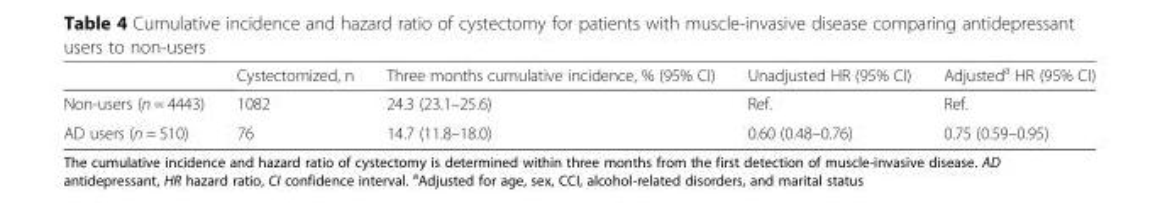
<table><thead><tr><td></td><td>Cystectomized, n</td><td>Three months cumulative incidence, % (95% CI)</td><td>Unadjusted HR (95% CI)</td><td>Adjusted<sup>a</sup> HR (95% CI)</td></tr></thead><tbody><tr><td>Non-users (n = 4443)</td><td>1082</td><td>24.3 (23.1–25.6)</td><td>Ref.</td><td>Ref.</td></tr><tr><td>AD users (n = 510)</td><td>76</td><td>14.7 (11.8–18.0)</td><td>0.60 (0.48–0.76)</td><td>0.75 (0.59–0.95)</td></tr></tbody></table>